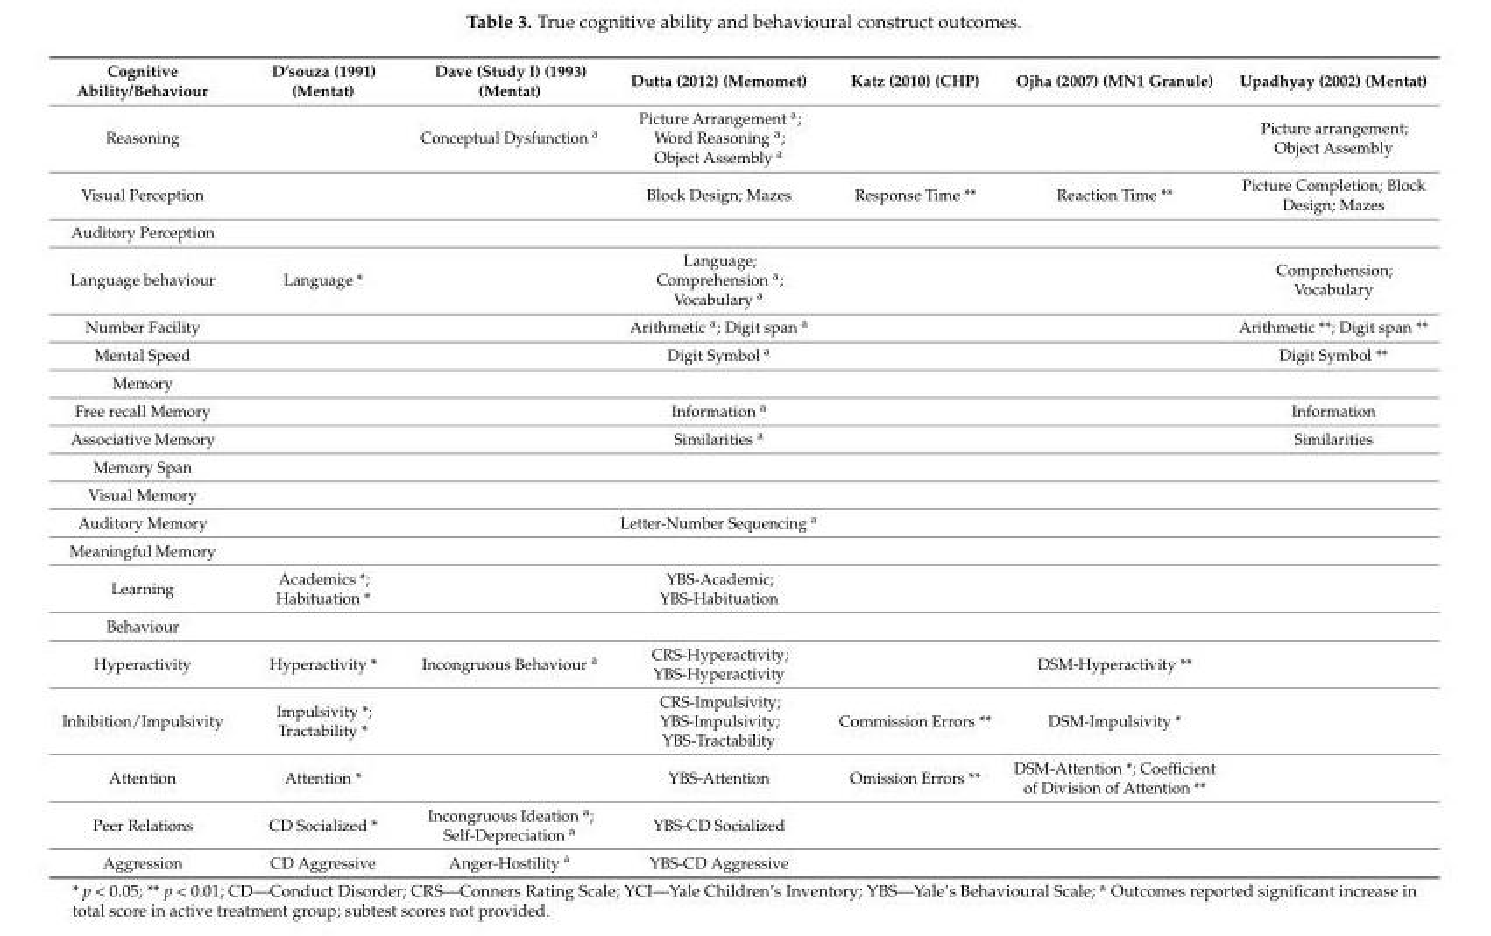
<table><thead><tr><td>Cognitive Ability/Behaviour</td><td>D’souza (1991) (Mentat)</td><td>Dave (Study I) (1993) (Mentat)</td><td>Dutta (2012) (Memomet)</td><td>Katz (2010) (CHP)</td><td>Ojha (2007) (MN1 Granule)</td><td>Upadhyay (2002) (Mentat)</td></tr></thead><tbody><tr><td>Reasoning</td><td></td><td>Conceptual Dysfunction <sup>a</sup></td><td>Picture Arrangement <sup>a</sup>; Word Reasoning <sup>a</sup>; Object Assembly <sup>a</sup></td><td></td><td></td><td>Picture arrangement; Object Assembly</td></tr><tr><td>Visual Perception</td><td></td><td></td><td>Block Design; Mazes</td><td>Response Time **</td><td>Reaction Time **</td><td>Picture Completion; Block Design; Mazes</td></tr><tr><td colspan="7">Auditory Perception</td></tr><tr><td>Language behaviour</td><td>Language *</td><td></td><td>Language; Comprehension <sup>a</sup>; Vocabulary <sup>a</sup></td><td></td><td></td><td>Comprehension; Vocabulary</td></tr><tr><td>Number Facility</td><td></td><td></td><td>Arithmetic <sup>a</sup>; Digit span <sup>a</sup></td><td></td><td></td><td>Arithmetic **; Digit span **</td></tr><tr><td>Mental Speed</td><td></td><td></td><td>Digit Symbol <sup>a</sup></td><td></td><td></td><td>Digit Symbol **</td></tr><tr><td colspan="7">Memory</td></tr><tr><td>Free recall Memory</td><td></td><td></td><td>Information <sup>a</sup></td><td></td><td></td><td>Information</td></tr><tr><td>Associative Memory</td><td></td><td></td><td>Similarities <sup>a</sup></td><td></td><td></td><td>Similarities</td></tr><tr><td colspan="7">Memory Span</td></tr><tr><td colspan="7">Visual Memory</td></tr><tr><td>Auditory Memory</td><td></td><td></td><td>Letter-Number Sequencing <sup>a</sup></td><td></td><td></td><td></td></tr><tr><td colspan="7">Meaningful Memory</td></tr><tr><td>Learning</td><td>Academics *; Habituation *</td><td></td><td>YBS-Academic; YBS-Habituation</td><td></td><td></td><td></td></tr><tr><td colspan="7">Behaviour</td></tr><tr><td>Hyperactivity</td><td>Hyperactivity *</td><td>Incongruous Behaviour <sup>a</sup></td><td>CRS-Hyperactivity; YBS-Hyperactivity</td><td></td><td>DSM-Hyperactivity **</td><td></td></tr><tr><td>Inhibition/Impulsivity</td><td>Impulsivity *; Tractability *</td><td></td><td>CRS-Impulsivity; YBS-Impulsivity; YBS-Tractability</td><td>Commission Errors **</td><td>DSM-Impulsivity *</td><td></td></tr><tr><td>Attention</td><td>Attention *</td><td></td><td>YBS-Attention</td><td>Omission Errors **</td><td>DSM-Attention *; Coefficient of Division of Attention **</td><td></td></tr><tr><td>Peer Relations</td><td>CD Socialized *</td><td>Incongruous Ideation <sup>a</sup>; Self-Depreciation <sup>a</sup></td><td>YBS-CD Socialized</td><td></td><td></td><td></td></tr><tr><td>Aggression</td><td>CD Aggressive</td><td>Anger-Hostility <sup>a</sup></td><td>YBS-CD Aggressive</td><td></td><td></td><td></td></tr></tbody></table>